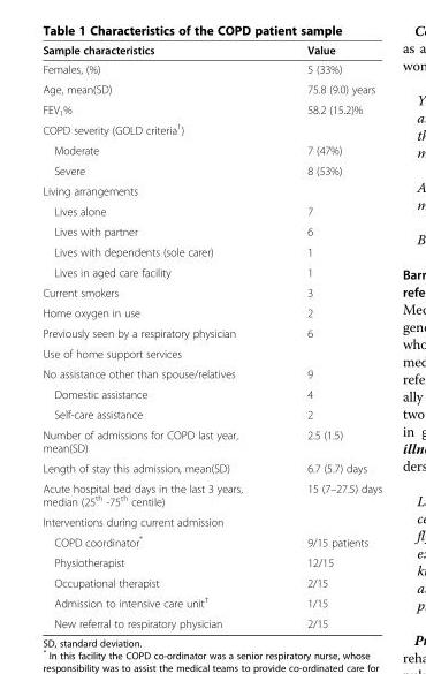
<table><thead><tr><td>Sample characteristics</td><td>Value</td></tr></thead><tbody><tr><td>Females, (%)</td><td>5 (33%)</td></tr><tr><td>Age, mean(SD)</td><td>75.8 (9.0) years</td></tr><tr><td>FEV<sub>1</sub>%</td><td>58.2 (15.2)%</td></tr><tr><td colspan="2">COPD severity (GOLD criteria<sup>1</sup>)</td></tr><tr><td>Moderate</td><td>7 (47%)</td></tr><tr><td>Severe</td><td>8 (53%)</td></tr><tr><td colspan="2">Living arrangements</td></tr><tr><td>Lives alone</td><td>7</td></tr><tr><td>Lives with partner</td><td>6</td></tr><tr><td>Lives with dependents (sole carer)</td><td>1</td></tr><tr><td>Lives in aged care facility</td><td>1</td></tr><tr><td>Current smokers</td><td>3</td></tr><tr><td>Home oxygen in use</td><td>2</td></tr><tr><td>Previously seen by a respiratory physician</td><td>6</td></tr><tr><td colspan="2">Use of home support services</td></tr><tr><td>No assistance other than spouse/relatives</td><td>9</td></tr><tr><td>Domestic assistance</td><td>4</td></tr><tr><td>Self-care assistance</td><td>2</td></tr><tr><td>Number of admissions for COPD last year, mean(SD)</td><td>2.5 (1.5)</td></tr><tr><td>Length of stay this admission, mean(SD)</td><td>6.7 (5.7) days</td></tr><tr><td>Acute hospital bed days in the last 3 years, median (25<sup>th</sup> -75<sup>th</sup> centile)</td><td>15 (7–27.5) days</td></tr><tr><td colspan="2">Interventions during current admission</td></tr><tr><td>COPD coordinator*</td><td>9/15 patients</td></tr><tr><td>Physiotherapist</td><td>12/15</td></tr><tr><td>Occupational therapist</td><td>2/15</td></tr><tr><td>Admission to intensive care unit<sup>†</sup></td><td>1/15</td></tr><tr><td>New referral to respiratory physician</td><td>2/15</td></tr></tbody></table>